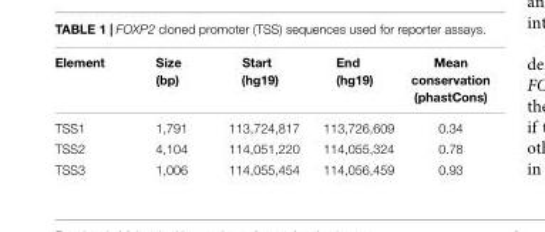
<table><thead><tr><td>Element</td><td>Size (bp)</td><td>Start (hg19)</td><td>End (hg19)</td><td>Mean conservation (phastCons)</td></tr></thead><tbody><tr><td>TSS1</td><td>1,791</td><td>113,724,817</td><td>113,726,609</td><td>0.34</td></tr><tr><td>TSS2</td><td>4,104</td><td>114,051,220</td><td>114,055,324</td><td>0.78</td></tr><tr><td>TSS3</td><td>1,006</td><td>114,055,454</td><td>114,056,459</td><td>0.93</td></tr></tbody></table>